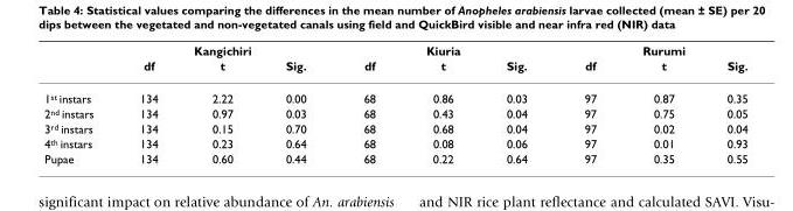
<table><thead><tr><td rowspan="2"></td><td colspan="3">Kangichiri</td><td colspan="3">Kiuria</td><td colspan="3">Rurumi</td></tr><tr><td>df</td><td>t</td><td>Sig.</td><td>df</td><td>t</td><td>Sig.</td><td>df</td><td>t</td><td>Sig.</td></tr></thead><tbody><tr><td>1<sup>st</sup> instars</td><td>134</td><td>2.22</td><td>0.00</td><td>68</td><td>0.86</td><td>0.03</td><td>97</td><td>0.87</td><td>0.35</td></tr><tr><td>2<sup>nd</sup> instars</td><td>134</td><td>0.97</td><td>0.03</td><td>68</td><td>0.43</td><td>0.04</td><td>97</td><td>0.75</td><td>0.05</td></tr><tr><td>3<sup>rd</sup> instars</td><td>134</td><td>0.15</td><td>0.70</td><td>68</td><td>0.68</td><td>0.04</td><td>97</td><td>0.02</td><td>0.04</td></tr><tr><td>4<sup>th</sup> instars</td><td>134</td><td>0.23</td><td>0.64</td><td>68</td><td>0.08</td><td>0.06</td><td>97</td><td>0.01</td><td>0.93</td></tr><tr><td>Pupae</td><td>134</td><td>0.60</td><td>0.44</td><td>68</td><td>0.22</td><td>0.64</td><td>97</td><td>0.35</td><td>0.55</td></tr></tbody></table>